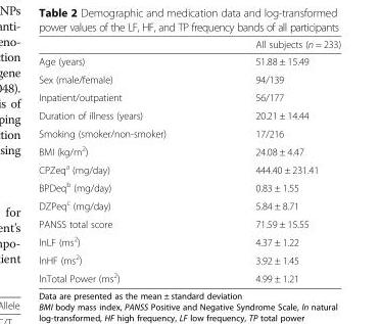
<table><thead><tr><td></td><td>All subjects (n = 233)</td></tr></thead><tbody><tr><td>Age (years)</td><td>51.88 ± 15.49</td></tr><tr><td>Sex (male/female)</td><td>94/139</td></tr><tr><td>Inpatient/outpatient</td><td>56/177</td></tr><tr><td>Duration of illness (years)</td><td>20.21 ± 14.44</td></tr><tr><td>Smoking (smoker/non-smoker)</td><td>17/216</td></tr><tr><td>BMI (kg/m<sup>2</sup>)</td><td>24.08 ± 4.47</td></tr><tr><td>CPZeq<sup>a</sup> (mg/day)</td><td>444.40 ± 231.41</td></tr><tr><td>BPDeq<sup>b</sup> (mg/day)</td><td>0.83 ± 1.55</td></tr><tr><td>DZPeq<sup>c</sup> (mg/day)</td><td>5.84 ± 8.71</td></tr><tr><td>PANSS total score</td><td>71.59 ± 15.55</td></tr><tr><td>lnLF (ms<sup>2</sup>)</td><td>4.37 ± 1.22</td></tr><tr><td>lnHF (ms<sup>2</sup>)</td><td>3.92 ± 1.45</td></tr><tr><td>lnTotal Power (ms<sup>2</sup>)</td><td>4.99 ± 1.21</td></tr></tbody></table>